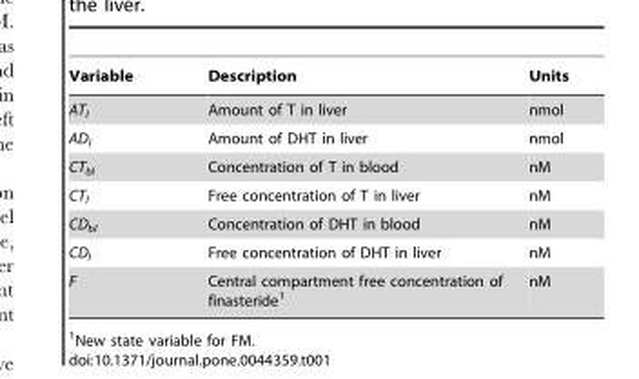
<table><thead><tr><td>Variable</td><td>Description</td><td>Units</td></tr></thead><tbody><tr><td>AT<sub>l</sub></td><td>Amount of T in liver</td><td>nmol</td></tr><tr><td>AD<sub>l</sub></td><td>Amount of DHT in liver</td><td>nmol</td></tr><tr><td>CT<sub>bl</sub></td><td>Concentration of T in blood</td><td>nM</td></tr><tr><td>CT<sub>l</sub></td><td>Free concentration of T in liver</td><td>nM</td></tr><tr><td>CD<sub>bl</sub></td><td>Concentration of DHT in blood</td><td>nM</td></tr><tr><td>CD<sub>l</sub></td><td>Free concentration of DHT in liver</td><td>nM</td></tr><tr><td>F</td><td>Central compartment free concentration of finasteride<sup>1</sup></td><td>nM</td></tr></tbody></table>